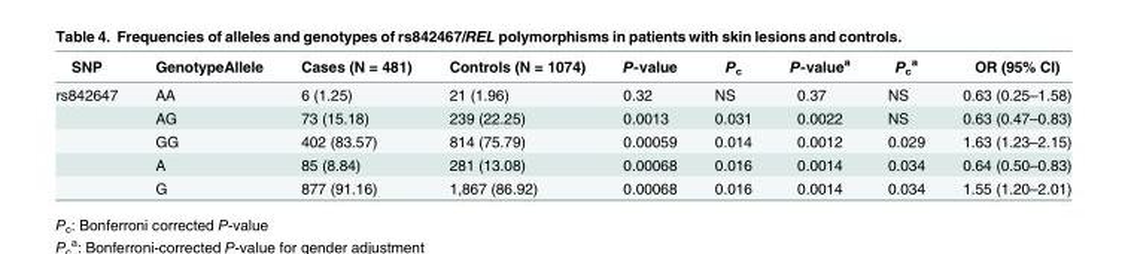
<table><thead><tr><td>SNP</td><td>GenotypeAllele</td><td>Cases (N = 481)</td><td>Controls (N = 1074)</td><td>P-value</td><td>P<sub>c</sub></td><td>P-value<sup>a</sup></td><td>P<sub>c</sub> <sup>a</sup></td><td>OR (95% CI)</td></tr></thead><tbody><tr><td rowspan="5">rs842647</td><td>AA</td><td>6 (1.25)</td><td>21 (1.96)</td><td>0.32</td><td>NS</td><td>0.37</td><td>NS</td><td>0.63 (0.25–1.58)</td></tr><tr><td>AG</td><td>73 (15.18)</td><td>239 (22.25)</td><td>0.0013</td><td>0.031</td><td>0.0022</td><td>NS</td><td>0.63 (0.47–0.83)</td></tr><tr><td>GG</td><td>402 (83.57)</td><td>814 (75.79)</td><td>0.00059</td><td>0.014</td><td>0.0012</td><td>0.029</td><td>1.63 (1.23–2.15)</td></tr><tr><td>A</td><td>85 (8.84)</td><td>281 (13.08)</td><td>0.00068</td><td>0.016</td><td>0.0014</td><td>0.034</td><td>0.64 (0.50–0.83)</td></tr><tr><td>G</td><td>877 (91.16)</td><td>1,867 (86.92)</td><td>0.00068</td><td>0.016</td><td>0.0014</td><td>0.034</td><td>1.55 (1.20–2.01)</td></tr></tbody></table>